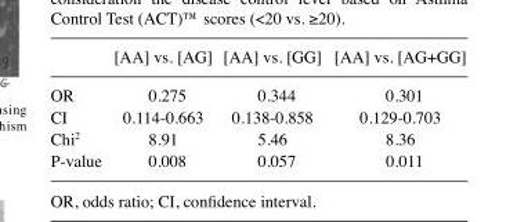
<table><thead><tr><td></td><td>[AA] vs. [AG]</td><td>[AA] vs. [GG]</td><td>[AA] vs. [AG+GG]</td></tr></thead><tbody><tr><td>OR</td><td>0.275</td><td>0.344</td><td>0.301</td></tr><tr><td>CI</td><td>0.114-0.663</td><td>0.138-0.858</td><td>0.129-0.703</td></tr><tr><td>Chi<sup>2</sup></td><td>8.91</td><td>5.46</td><td>8.36</td></tr><tr><td>P-value</td><td>0.008</td><td>0.057</td><td>0.011</td></tr></tbody></table>